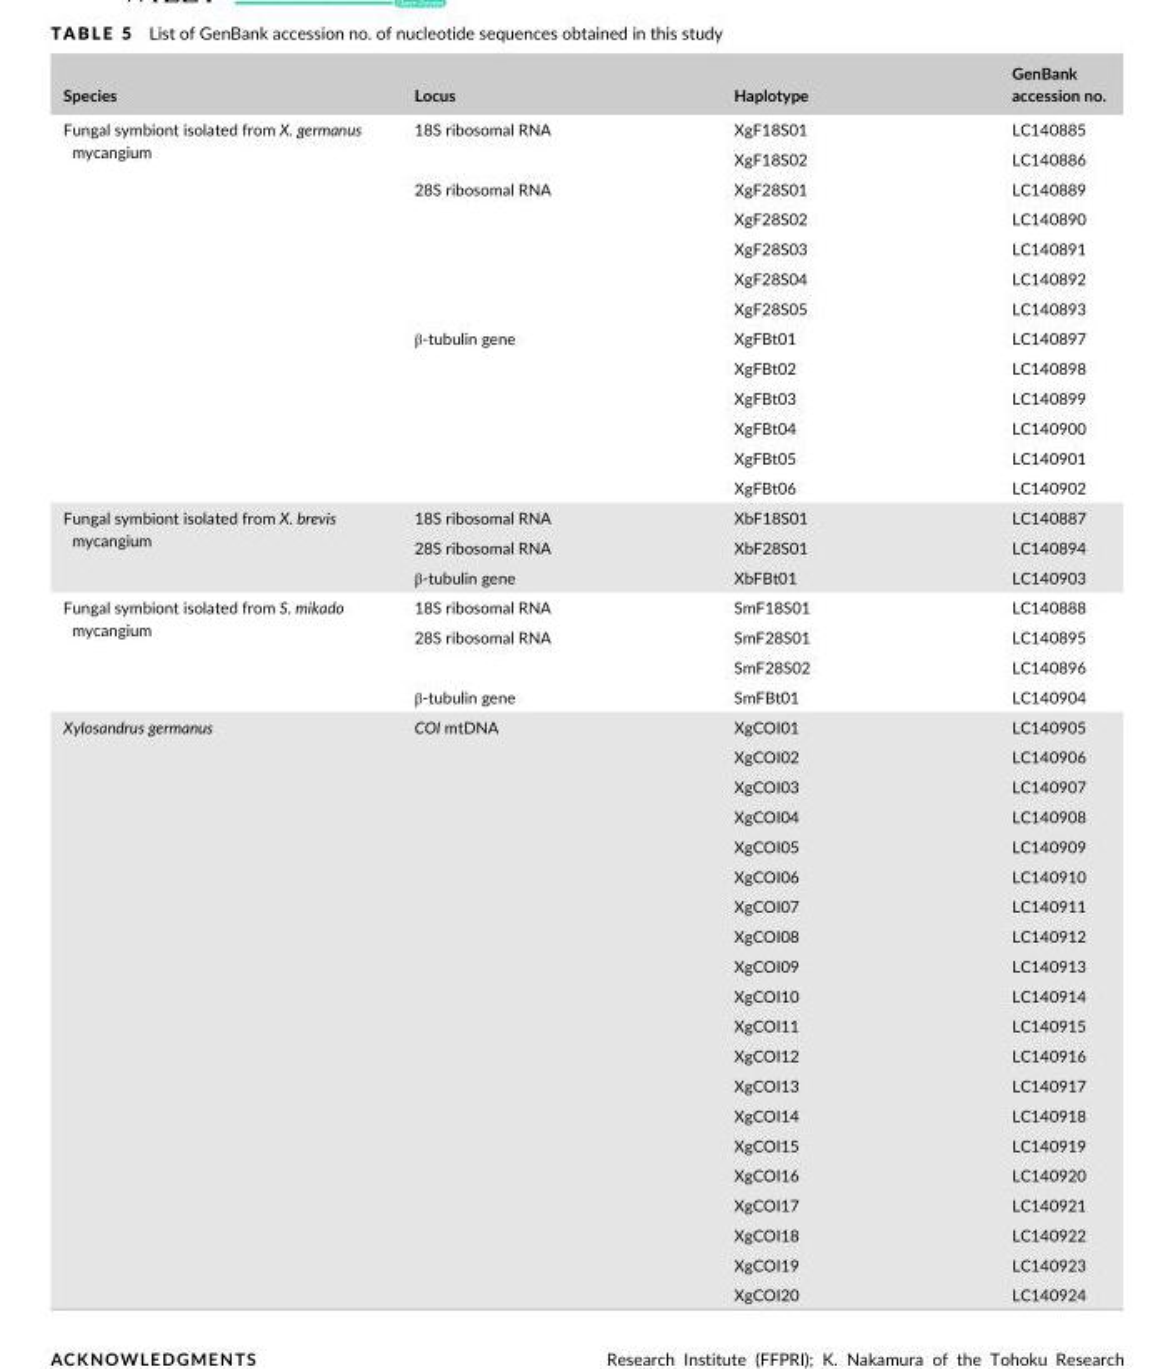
<table><thead><tr><td>Species</td><td>Locus</td><td>Haplotype</td><td>GenBank accession no.</td></tr></thead><tbody><tr><td rowspan="13">Fungal symbiont isolated from X. germanus mycangium</td><td rowspan="2">18S ribosomal RNA</td><td>XgF18S01</td><td>LC140885</td></tr><tr><td>XgF18S02</td><td>LC140886</td></tr><tr><td rowspan="5">28S ribosomal RNA</td><td>XgF28S01</td><td>LC140889</td></tr><tr><td>XgF28S02</td><td>LC140890</td></tr><tr><td>XgF28S03</td><td>LC140891</td></tr><tr><td>XgF28S04</td><td>LC140892</td></tr><tr><td>XgF28S05</td><td>LC140893</td></tr><tr><td rowspan="6">β- tubulin gene</td><td>XgFBt01</td><td>LC140897</td></tr><tr><td>XgFBt02</td><td>LC140898</td></tr><tr><td>XgFBt03</td><td>LC140899</td></tr><tr><td>XgFBt04</td><td>LC140900</td></tr><tr><td>XgFBt05</td><td>LC140901</td></tr><tr><td>XgFBt06</td><td>LC140902</td></tr><tr><td rowspan="3">Fungal symbiont isolated from X. brevis mycangium</td><td>18S ribosomal RNA</td><td>XbF18S01</td><td>LC140887</td></tr><tr><td>28S ribosomal RNA</td><td>XbF28S01</td><td>LC140894</td></tr><tr><td>β- tubulin gene</td><td>XbFBt01</td><td>LC140903</td></tr><tr><td rowspan="4">Fungal symbiont isolated from S. mikado mycangium</td><td>18S ribosomal RNA</td><td>SmF18S01</td><td>LC140888</td></tr><tr><td>28S ribosomal RNA</td><td>SmF28S01</td><td>LC140895</td></tr><tr><td></td><td>SmF28S02</td><td>LC140896</td></tr><tr><td>β- tubulin gene</td><td>SmFBt01</td><td>LC140904</td></tr><tr><td rowspan="20">Xylosandrus germanus</td><td rowspan="20">COI mtDNA</td><td>XgCOI01</td><td>LC140905</td></tr><tr><td>XgCOI02</td><td>LC140906</td></tr><tr><td>XgCOI03</td><td>LC140907</td></tr><tr><td>XgCOI04</td><td>LC140908</td></tr><tr><td>XgCOI05</td><td>LC140909</td></tr><tr><td>XgCOI06</td><td>LC140910</td></tr><tr><td>XgCOI07</td><td>LC140911</td></tr><tr><td>XgCOI08</td><td>LC140912</td></tr><tr><td>XgCOI09</td><td>LC140913</td></tr><tr><td>XgCOI10</td><td>LC140914</td></tr><tr><td>XgCOI11</td><td>LC140915</td></tr><tr><td>XgCOI12</td><td>LC140916</td></tr><tr><td>XgCOI13</td><td>LC140917</td></tr><tr><td>XgCOI14</td><td>LC140918</td></tr><tr><td>XgCOI15</td><td>LC140919</td></tr><tr><td>XgCOI16</td><td>LC140920</td></tr><tr><td>XgCOI17</td><td>LC140921</td></tr><tr><td>XgCOI18</td><td>LC140922</td></tr><tr><td>XgCOI19</td><td>LC140923</td></tr><tr><td>XgCOI20</td><td>LC140924</td></tr></tbody></table>